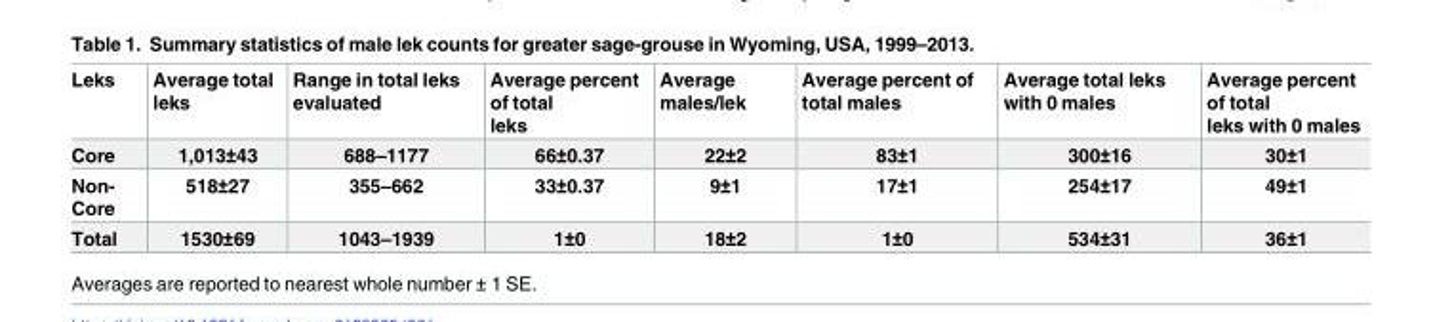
<table><thead><tr><td>Leks</td><td>Average total leks</td><td>Range in total leks evaluated</td><td>Average percent of total leks</td><td>Average males/lek</td><td>Average percent of total males</td><td>Average total leks with 0 males</td><td>Average percent of total leks with 0 males</td></tr></thead><tbody><tr><td>Core</td><td>1,013±43</td><td>688–1177</td><td>66±0.37</td><td>22±2</td><td>83±1</td><td>300±16</td><td>30±1</td></tr><tr><td>Non- Core</td><td>518±27</td><td>355–662</td><td>33±0.37</td><td>9±1</td><td>17±1</td><td>254±17</td><td>49±1</td></tr><tr><td>Total</td><td>1530±69</td><td>1043–1939</td><td>1±0</td><td>18±2</td><td>1±0</td><td>534±31</td><td>36±1</td></tr></tbody></table>